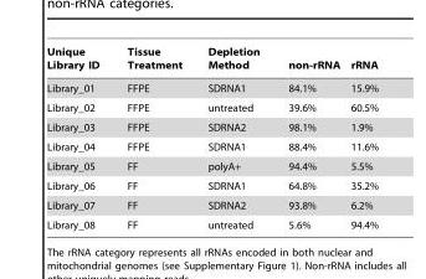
<table><thead><tr><td>Unique Library ID</td><td>Tissue Treatment</td><td>Depletion Method</td><td>non-rRNA</td><td>rRNA</td></tr></thead><tbody><tr><td>Library_01</td><td>FFPE</td><td>SDRNA1</td><td>84.1%</td><td>15.9%</td></tr><tr><td>Library_02</td><td>FFPE</td><td>untreated</td><td>39.6%</td><td>60.5%</td></tr><tr><td>Library_03</td><td>FFPE</td><td>SDRNA2</td><td>98.1%</td><td>1.9%</td></tr><tr><td>Library_04</td><td>FFPE</td><td>SDRNA1</td><td>88.4%</td><td>11.6%</td></tr><tr><td>Library_05</td><td>FF</td><td>polyA+</td><td>94.4%</td><td>5.5%</td></tr><tr><td>Library_06</td><td>FF</td><td>SDRNA1</td><td>64.8%</td><td>35.2%</td></tr><tr><td>Library_07</td><td>FF</td><td>SDRNA2</td><td>93.8%</td><td>6.2%</td></tr><tr><td>Library_08</td><td>FF</td><td>untreated</td><td>5.6%</td><td>94.4%</td></tr></tbody></table>